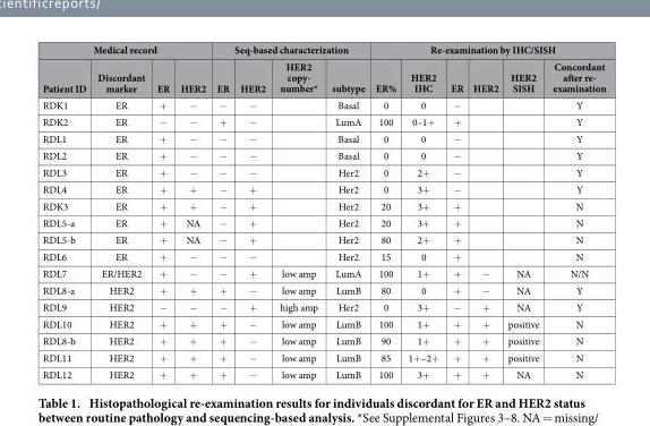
<table><thead><tr><td colspan="4">Medical record</td><td colspan="4">Seq-based characterization</td><td colspan="6">Re-examination by IHC/SISH</td></tr><tr><td>Patient ID</td><td>Discordant marker</td><td>ER</td><td>HER2</td><td>ER</td><td>HER2</td><td>HER2 copy- number*</td><td>subtype</td><td>ER%</td><td>HER2 IHC</td><td>ER</td><td>HER2</td><td>HER2 SISH</td><td>Concordant after re- examination</td></tr></thead><tbody><tr><td>RDK1</td><td>ER</td><td>+</td><td>−</td><td>−</td><td>−</td><td></td><td>Basal</td><td>0</td><td>0</td><td>−</td><td></td><td></td><td>Y</td></tr><tr><td>RDK2</td><td>ER</td><td>−</td><td>−</td><td>+</td><td>−</td><td></td><td>LumA</td><td>100</td><td>0–1+</td><td>+</td><td></td><td></td><td>Y</td></tr><tr><td>RDL1</td><td>ER</td><td>+</td><td>−</td><td>−</td><td>−</td><td></td><td>Basal</td><td>0</td><td>0</td><td>−</td><td></td><td></td><td>Y</td></tr><tr><td>RDL2</td><td>ER</td><td>+</td><td>−</td><td>−</td><td>−</td><td></td><td>Basal</td><td>0</td><td>0</td><td>−</td><td></td><td></td><td>Y</td></tr><tr><td>RDL3</td><td>ER</td><td>+</td><td>−</td><td>−</td><td>−</td><td></td><td>Her2</td><td>0</td><td>2+</td><td>−</td><td></td><td></td><td>Y</td></tr><tr><td>RDL4</td><td>ER</td><td>+</td><td>+</td><td>−</td><td>+</td><td></td><td>Her2</td><td>0</td><td>3+</td><td>−</td><td></td><td></td><td>Y</td></tr><tr><td>RDK3</td><td>ER</td><td>+</td><td>+</td><td>−</td><td>+</td><td></td><td>Her2</td><td>20</td><td>3+</td><td>+</td><td></td><td></td><td>N</td></tr><tr><td>RDL5-a</td><td>ER</td><td>+</td><td>NA</td><td>−</td><td>+</td><td></td><td>Her2</td><td>20</td><td>3+</td><td>+</td><td></td><td></td><td>N</td></tr><tr><td>RDL5-b</td><td>ER</td><td>+</td><td>NA</td><td>−</td><td>+</td><td></td><td>Her2</td><td>80</td><td>2+</td><td>+</td><td></td><td></td><td>N</td></tr><tr><td>RDL6</td><td>ER</td><td>+</td><td>−</td><td>−</td><td>−</td><td></td><td>Her2</td><td>15</td><td>0</td><td>+</td><td></td><td></td><td>N</td></tr><tr><td>RDL7</td><td>ER/HER2</td><td>+</td><td>−</td><td>−</td><td>+</td><td>low amp</td><td>LumA</td><td>100</td><td>1+</td><td>+</td><td>−</td><td>NA</td><td>N/N</td></tr><tr><td>RDL8-a</td><td>HER2</td><td>+</td><td>+</td><td>+</td><td>−</td><td>low amp</td><td>LumB</td><td>80</td><td>0</td><td>+</td><td>−</td><td>NA</td><td>Y</td></tr><tr><td>RDL9</td><td>HER2</td><td>−</td><td>−</td><td>−</td><td>+</td><td>high amp</td><td>Her2</td><td>0</td><td>3+</td><td>−</td><td>+</td><td>NA</td><td>Y</td></tr><tr><td>RDL10</td><td>HER2</td><td>+</td><td>+</td><td>+</td><td>−</td><td>low amp</td><td>LumB</td><td>100</td><td>1+</td><td>+</td><td>+</td><td>positive</td><td>N</td></tr><tr><td>RDL8-b</td><td>HER2</td><td>+</td><td>+</td><td>+</td><td>−</td><td>low amp</td><td>LumB</td><td>90</td><td>1+</td><td>+</td><td>+</td><td>positive</td><td>N</td></tr><tr><td>RDL11</td><td>HER2</td><td>+</td><td>+</td><td>+</td><td>−</td><td>low amp</td><td>LumB</td><td>85</td><td>1+ –2+</td><td>+</td><td>+</td><td>positive</td><td>N</td></tr><tr><td>RDL12</td><td>HER2</td><td>+</td><td>+</td><td>+</td><td>−</td><td>low amp</td><td>LumB</td><td>100</td><td>3+</td><td>+</td><td>+</td><td>NA</td><td>N</td></tr></tbody></table>